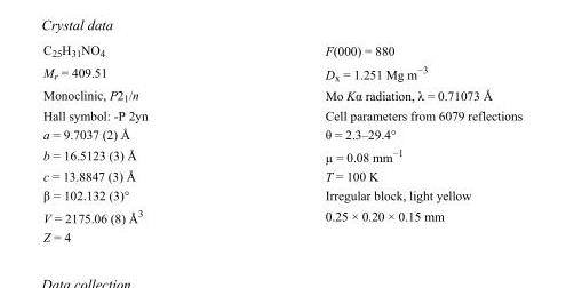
<table><tbody><tr><td>C<sub>25</sub>H<sub>31</sub>NO<sub>4</sub></td><td>F(000) = 880</td></tr><tr><td>M<sub>r</sub> = 409.51</td><td>D<sub>x</sub> = 1.251 Mg m<sup>−3</sup></td></tr><tr><td>Monoclinic, P2<sub>1</sub>/n</td><td>Mo Kα radiation, λ = 0.71073 Å</td></tr><tr><td>Hall symbol: -P 2yn</td><td>Cell parameters from 6079 reflections</td></tr><tr><td>a = 9.7037 (2) Å</td><td>θ = 2.3–29.4°</td></tr><tr><td>b = 16.5123 (3) Å</td><td>µ = 0.08 mm<sup>−1</sup></td></tr><tr><td>c = 13.8847 (3) Å</td><td>T = 100 K</td></tr><tr><td>β = 102.132 (3)°</td><td>Irregular block, light yellow</td></tr><tr><td>V = 2175.06 (8) Å<sup>3</sup></td><td>0.25 × 0.20 × 0.15 mm</td></tr><tr><td>Z = 4</td><td></td></tr></tbody></table>